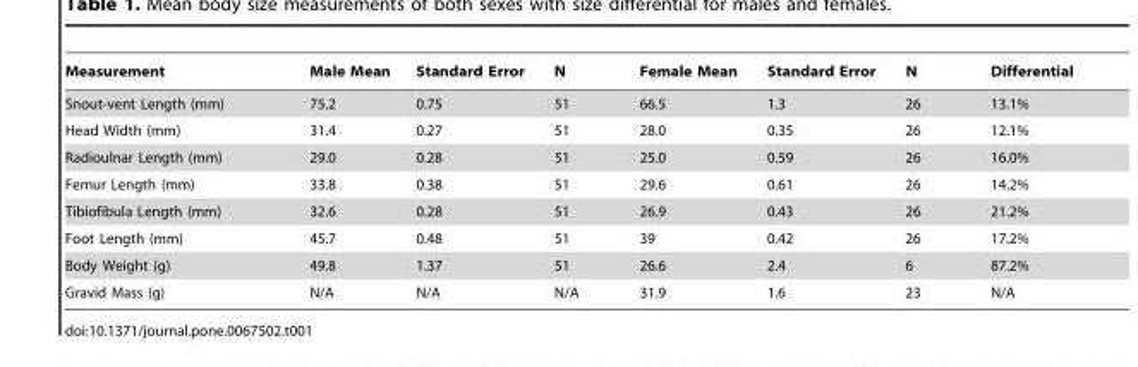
<table><thead><tr><td>Measurement</td><td>Male Mean</td><td>Standard Error</td><td>N</td><td>Female Mean</td><td>Standard Error</td><td>N</td><td>Differential</td></tr></thead><tbody><tr><td>Snout-vent Length (mm)</td><td>75.2</td><td>0.75</td><td>51</td><td>66.5</td><td>1.3</td><td>26</td><td>13.1%</td></tr><tr><td>Head Width (mm)</td><td>31.4</td><td>0.27</td><td>51</td><td>28.0</td><td>0.35</td><td>26</td><td>12.1%</td></tr><tr><td>Radioulnar Length (mm)</td><td>29.0</td><td>0.28</td><td>51</td><td>25.0</td><td>0.59</td><td>26</td><td>16.0%</td></tr><tr><td>Femur Length (mm)</td><td>33.8</td><td>0.38</td><td>51</td><td>29.6</td><td>0.61</td><td>26</td><td>14.2%</td></tr><tr><td>Tibiofibula Length (mm)</td><td>32.6</td><td>0.28</td><td>51</td><td>26.9</td><td>0.43</td><td>26</td><td>21.2%</td></tr><tr><td>Foot Length (mm)</td><td>45.7</td><td>0.48</td><td>51</td><td>39</td><td>0.42</td><td>26</td><td>17.2%</td></tr><tr><td>Body Weight (g)</td><td>49.8</td><td>1.37</td><td>51</td><td>26.6</td><td>2.4</td><td>6</td><td>87.2%</td></tr><tr><td>Gravid Mass (g)</td><td>N/A</td><td>N/A</td><td>N/A</td><td>31.9</td><td>1.6</td><td>23</td><td>N/A</td></tr></tbody></table>